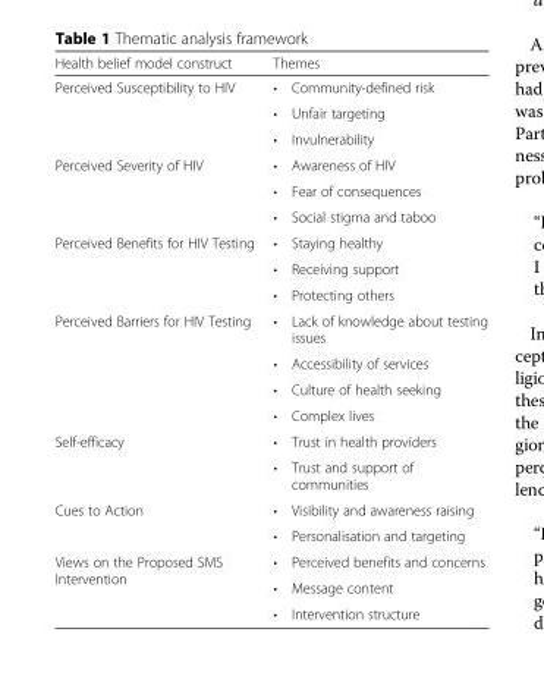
<table><thead><tr><td>Health belief model construct</td><td>Themes</td></tr></thead><tbody><tr><td rowspan="3">Perceived Susceptibility to HIV</td><td>• Community-defined risk</td></tr><tr><td>• Unfair targeting</td></tr><tr><td>• Invulnerability</td></tr><tr><td rowspan="3">Perceived Severity of HIV</td><td>• Awareness of HIV</td></tr><tr><td>• Fear of consequences</td></tr><tr><td>• Social stigma and taboo</td></tr><tr><td rowspan="3">Perceived Benefits for HIV Testing</td><td>• Staying healthy</td></tr><tr><td>• Receiving support</td></tr><tr><td>• Protecting others</td></tr><tr><td rowspan="4">Perceived Barriers for HIV Testing</td><td>• Lack of knowledge about testing issues</td></tr><tr><td>• Accessibility of services</td></tr><tr><td>• Culture of health seeking</td></tr><tr><td>• Complex lives</td></tr><tr><td rowspan="2">Self-efficacy</td><td>• Trust in health providers</td></tr><tr><td>• Trust and support of communities</td></tr><tr><td rowspan="2">Cues to Action</td><td>• Visibility and awareness raising</td></tr><tr><td>• Personalisation and targeting</td></tr><tr><td rowspan="3">Views on the Proposed SMS Intervention</td><td>• Perceived benefits and concerns</td></tr><tr><td>• Message content</td></tr><tr><td>• Intervention structure</td></tr></tbody></table>